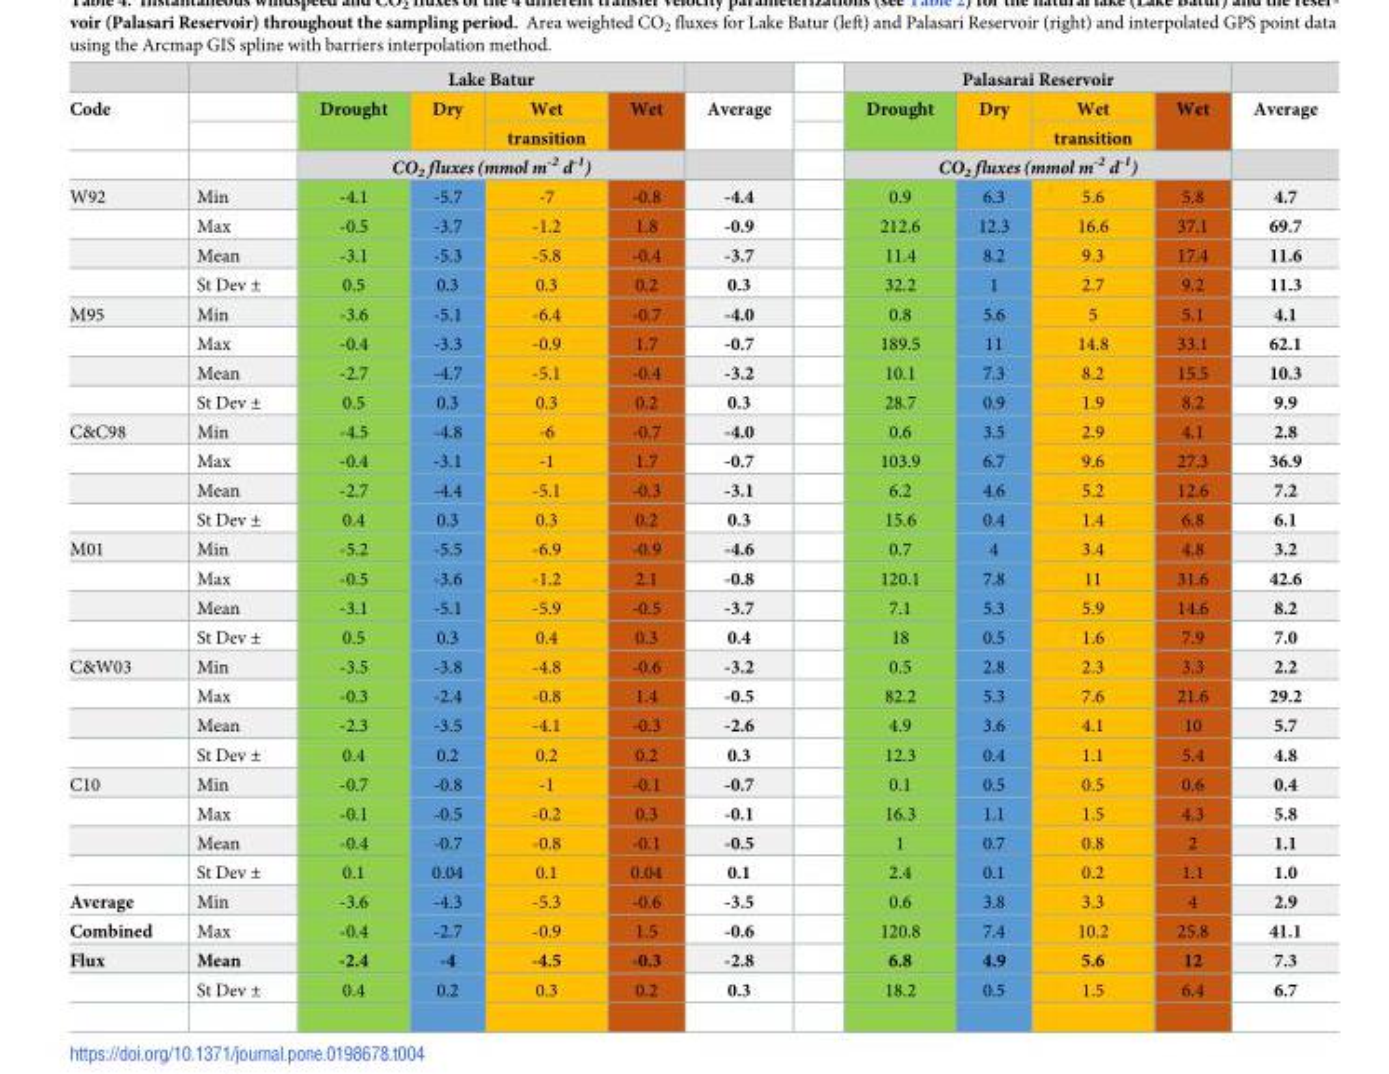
<table><thead><tr><td rowspan="4">Code</td><td rowspan="4"></td><td colspan="4">Lake Batur</td><td rowspan="4">Average</td><td colspan="4">Palasarai Reservoir</td><td rowspan="4">Average</td></tr><tr><td rowspan="2">Drought</td><td rowspan="2">Dry</td><td rowspan="2">Wet transition</td><td rowspan="2">Wet</td><td rowspan="2">Drought</td><td rowspan="2">Dry</td><td rowspan="2">Wet transition</td><td rowspan="2">Wet</td></tr><tr></tr><tr><td colspan="4">CO<sub>2</sub> fluxes (mmol m<sup>-2</sup> d<sup>-1</sup>)</td><td colspan="4">CO<sub>2</sub> fluxes (mmol m<sup>-2</sup> d<sup>-1</sup>)</td></tr></thead><tbody><tr><td rowspan="4">W92</td><td>Min</td><td>-4.1</td><td>-5.7</td><td>-7</td><td>-0.8</td><td>-4.4</td><td>0.9</td><td>6.3</td><td>5.6</td><td>5.8</td><td>4.7</td></tr><tr><td>Max</td><td>-0.5</td><td>-3.7</td><td>-1.2</td><td>1.8</td><td>-0.9</td><td>212.6</td><td>12.3</td><td>16.6</td><td>37.1</td><td>69.7</td></tr><tr><td>Mean</td><td>-3.1</td><td>-5.3</td><td>-5.8</td><td>-0.4</td><td>-3.7</td><td>11.4</td><td>8.2</td><td>9.3</td><td>17.4</td><td>11.6</td></tr><tr><td>St Dev ±</td><td>0.5</td><td>0.3</td><td>0.3</td><td>0.2</td><td>0.3</td><td>32.2</td><td>1</td><td>2.7</td><td>9.2</td><td>11.3</td></tr><tr><td rowspan="4">M95</td><td>Min</td><td>-3.6</td><td>-5.1</td><td>-6.4</td><td>-0.7</td><td>-4.0</td><td>0.8</td><td>5.6</td><td>5</td><td>5.1</td><td>4.1</td></tr><tr><td>Max</td><td>-0.4</td><td>-3.3</td><td>-0.9</td><td>1.7</td><td>-0.7</td><td>189.5</td><td>11</td><td>14.8</td><td>33.1</td><td>62.1</td></tr><tr><td>Mean</td><td>-2.7</td><td>-4.7</td><td>-5.1</td><td>-0.4</td><td>-3.2</td><td>10.1</td><td>7.3</td><td>8.2</td><td>15.5</td><td>10.3</td></tr><tr><td>St Dev ±</td><td>0.5</td><td>0.3</td><td>0.3</td><td>0.2</td><td>0.3</td><td>28.7</td><td>0.9</td><td>1.9</td><td>8.2</td><td>9.9</td></tr><tr><td rowspan="4">C&amp;C98</td><td>Min</td><td>-4.5</td><td>-4.8</td><td>-6</td><td>-0.7</td><td>-4.0</td><td>0.6</td><td>3.5</td><td>2.9</td><td>4.1</td><td>2.8</td></tr><tr><td>Max</td><td>-0.4</td><td>-3.1</td><td>-1</td><td>1.7</td><td>-0.7</td><td>103.9</td><td>6.7</td><td>9.6</td><td>27.3</td><td>36.9</td></tr><tr><td>Mean</td><td>-2.7</td><td>-4.4</td><td>-5.1</td><td>-0.3</td><td>-3.1</td><td>6.2</td><td>4.6</td><td>5.2</td><td>12.6</td><td>7.2</td></tr><tr><td>St Dev ±</td><td>0.4</td><td>0.3</td><td>0.3</td><td>0.2</td><td>0.3</td><td>15.6</td><td>0.4</td><td>1.4</td><td>6.8</td><td>6.1</td></tr><tr><td rowspan="4">M01</td><td>Min</td><td>-5.2</td><td>-5.5</td><td>-6.9</td><td>-0.9</td><td>-4.6</td><td>0.7</td><td>4</td><td>3.4</td><td>4.8</td><td>3.2</td></tr><tr><td>Max</td><td>-0.5</td><td>-3.6</td><td>-1.2</td><td>2.1</td><td>-0.8</td><td>120.1</td><td>7.8</td><td>11</td><td>31.6</td><td>42.6</td></tr><tr><td>Mean</td><td>-3.1</td><td>-5.1</td><td>-5.9</td><td>-0.5</td><td>-3.7</td><td>7.1</td><td>5.3</td><td>5.9</td><td>14.6</td><td>8.2</td></tr><tr><td>St Dev ±</td><td>0.5</td><td>0.3</td><td>0.4</td><td>0.3</td><td>0.4</td><td>18</td><td>0.5</td><td>1.6</td><td>7.9</td><td>7.0</td></tr><tr><td rowspan="4">C&amp;W03</td><td>Min</td><td>-3.5</td><td>-3.8</td><td>-4.8</td><td>-0.6</td><td>-3.2</td><td>0.5</td><td>2.8</td><td>2.3</td><td>3.3</td><td>2.2</td></tr><tr><td>Max</td><td>-0.3</td><td>-2.4</td><td>-0.8</td><td>1.4</td><td>-0.5</td><td>82.2</td><td>5.3</td><td>7.6</td><td>21.6</td><td>29.2</td></tr><tr><td>Mean</td><td>-2.3</td><td>-3.5</td><td>-4.1</td><td>-0.3</td><td>-2.6</td><td>4.9</td><td>3.6</td><td>4.1</td><td>10</td><td>5.7</td></tr><tr><td>St Dev ±</td><td>0.4</td><td>0.2</td><td>0.2</td><td>0.2</td><td>0.3</td><td>12.3</td><td>0.4</td><td>1.1</td><td>5.4</td><td>4.8</td></tr><tr><td rowspan="4">C10</td><td>Min</td><td>-0.7</td><td>-0.8</td><td>-1</td><td>-0.1</td><td>-0.7</td><td>0.1</td><td>0.5</td><td>0.5</td><td>0.6</td><td>0.4</td></tr><tr><td>Max</td><td>-0.1</td><td>-0.5</td><td>-0.2</td><td>0.3</td><td>-0.1</td><td>16.3</td><td>1.1</td><td>1.5</td><td>4.3</td><td>5.8</td></tr><tr><td>Mean</td><td>-0.4</td><td>-0.7</td><td>-0.8</td><td>-0.1</td><td>-0.5</td><td>1</td><td>0.7</td><td>0.8</td><td>2</td><td>1.1</td></tr><tr><td>St Dev ±</td><td>0.1</td><td>0.04</td><td>0.1</td><td>0.04</td><td>0.1</td><td>2.4</td><td>0.1</td><td>0.2</td><td>1.1</td><td>1.0</td></tr><tr><td>Average</td><td>Min</td><td>-3.6</td><td>-4.3</td><td>-5.3</td><td>-0.6</td><td>-3.5</td><td>0.6</td><td>3.8</td><td>3.3</td><td>4</td><td>2.9</td></tr><tr><td>Combined</td><td>Max</td><td>-0.4</td><td>-2.7</td><td>-0.9</td><td>1.5</td><td>-0.6</td><td>120.8</td><td>7.4</td><td>10.2</td><td>25.8</td><td>41.1</td></tr><tr><td rowspan="2">Flux</td><td>Mean</td><td>-2.4</td><td>-4</td><td>-4.5</td><td>-0.3</td><td>-2.8</td><td>6.8</td><td>4.9</td><td>5.6</td><td>12</td><td>7.3</td></tr><tr><td>St Dev ±</td><td>0.4</td><td>0.2</td><td>0.3</td><td>0.2</td><td>0.3</td><td>18.2</td><td>0.5</td><td>1.5</td><td>6.4</td><td>6.7</td></tr></tbody></table>